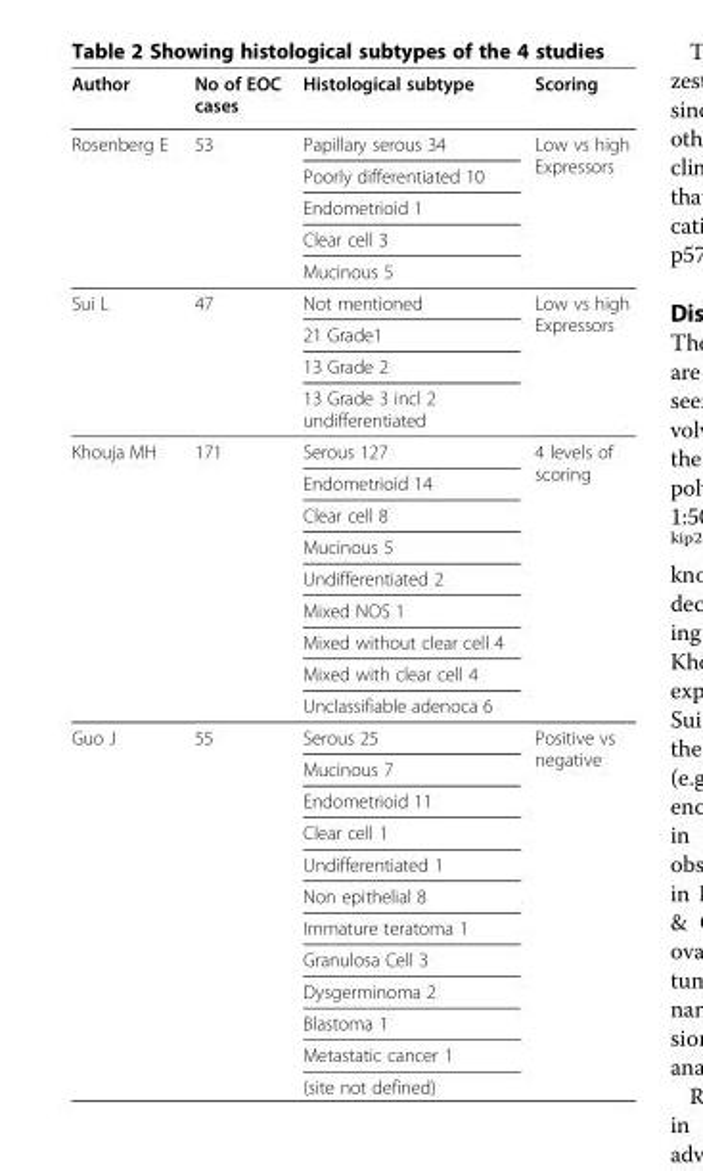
<table><thead><tr><td>Author</td><td>No of EOC cases</td><td>Histological subtype</td><td>Scoring</td></tr></thead><tbody><tr><td rowspan="5">Rosenberg E</td><td rowspan="4">53</td><td>Papillary serous 34</td><td rowspan="4">Low vs high Expressors</td></tr><tr><td>Poorly differentiated 10</td></tr><tr><td>Endometrioid 1</td></tr><tr><td>Clear cell 3</td></tr><tr><td></td><td>Mucinous 5</td><td></td></tr><tr><td rowspan="4">Sui L</td><td rowspan="3">47</td><td>Not mentioned</td><td rowspan="3">Low vs high Expressors</td></tr><tr><td>21 Grade1</td></tr><tr><td>13 Grade 2</td></tr><tr><td></td><td>13 Grade 3 incl 2 undifferentiated</td><td></td></tr><tr><td rowspan="9">Khouja MH</td><td rowspan="8">171</td><td>Serous 127</td><td rowspan="8">4 levels of scoring</td></tr><tr><td>Endometrioid 14</td></tr><tr><td>Clear cell 8</td></tr><tr><td>Mucinous 5</td></tr><tr><td>Undifferentiated 2</td></tr><tr><td>Mixed NOS 1</td></tr><tr><td>Mixed without clear cell 4</td></tr><tr><td>Mixed with clear cell 4</td></tr><tr><td></td><td>Unclassifiable adenoca 6</td><td></td></tr><tr><td rowspan="12">Guo J</td><td rowspan="11">55</td><td>Serous 25</td><td rowspan="11">Positive vs negative</td></tr><tr><td>Mucinous 7</td></tr><tr><td>Endometrioid 11</td></tr><tr><td>Clear cell 1</td></tr><tr><td>Undifferentiated 1</td></tr><tr><td>Non epithelial 8</td></tr><tr><td>Immature teratoma 1</td></tr><tr><td>Granulosa Cell 3</td></tr><tr><td>Dysgerminoma 2</td></tr><tr><td>Blastoma 1</td></tr><tr><td>Metastatic cancer 1</td></tr><tr><td></td><td>(site not defined)</td><td></td></tr></tbody></table>